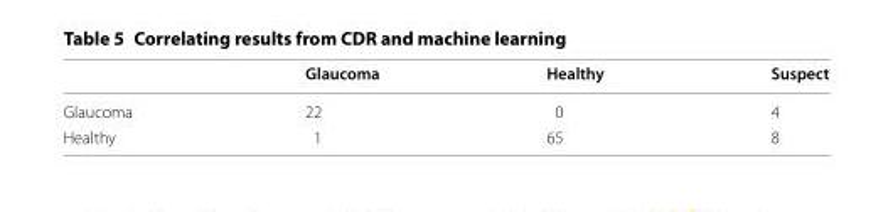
<table><thead><tr><td></td><td>Glaucoma</td><td>Healthy</td><td>Suspect</td></tr></thead><tbody><tr><td>Glaucoma</td><td>22</td><td>0</td><td>4</td></tr><tr><td>Healthy</td><td>1</td><td>65</td><td>8</td></tr></tbody></table>